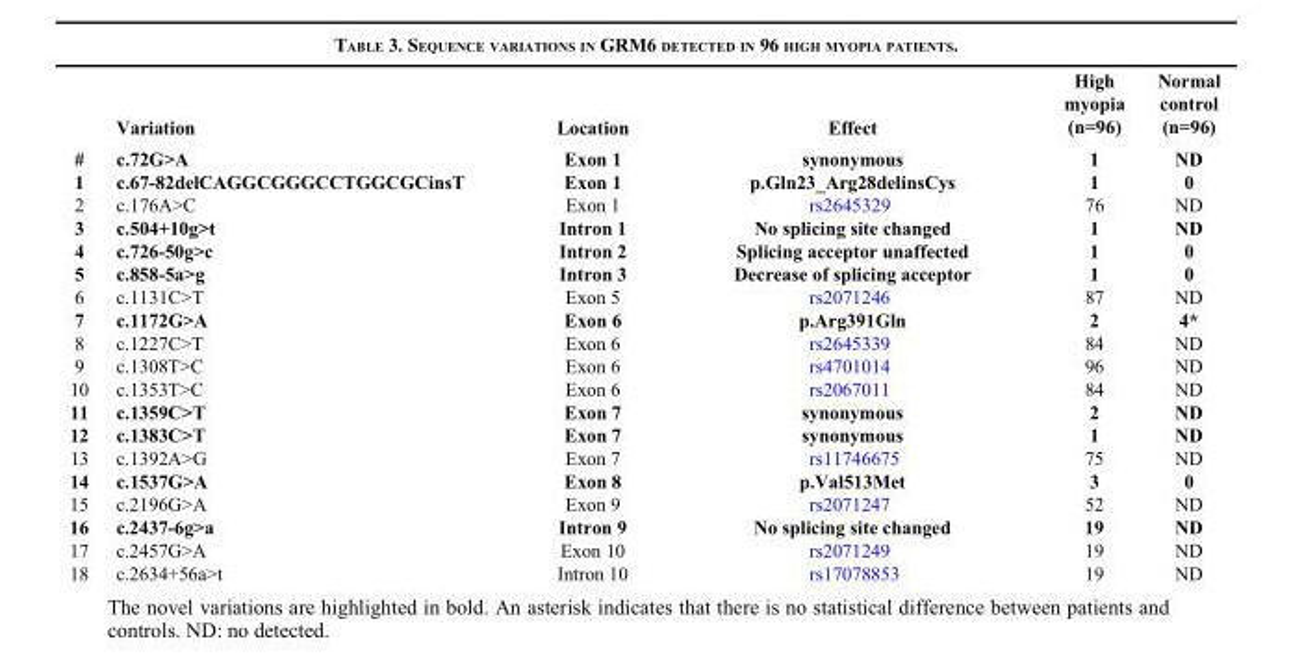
<table><thead><tr><td></td><td>Variation</td><td>Location</td><td>Effect</td><td>High myopia (n=96)</td><td>Normal control (n=96)</td></tr></thead><tbody><tr><td>#</td><td>c.72G&gt;A</td><td>Exon 1</td><td>synonymous</td><td>1</td><td>ND</td></tr><tr><td>1</td><td>c.67-82delCAGGCGGGCCTGGCGCinsT</td><td>Exon 1</td><td>p.Gln23_Arg28delinsCys</td><td>1</td><td>0</td></tr><tr><td>2</td><td>c.176A&gt;C</td><td>Exon 1</td><td>rs2645329</td><td>76</td><td>ND</td></tr><tr><td>3</td><td>c.504+10g&gt;t</td><td>Intron 1</td><td>No splicing site changed</td><td>1</td><td>ND</td></tr><tr><td>4</td><td>c.726-50g&gt;c</td><td>Intron 2</td><td>Splicing acceptor unaffected</td><td>1</td><td>0</td></tr><tr><td>5</td><td>c.858-5a&gt;g</td><td>Intron 3</td><td>Decrease of splicing acceptor</td><td>1</td><td>0</td></tr><tr><td>6</td><td>c.1131C&gt;T</td><td>Exon 5</td><td>rs2071246</td><td>87</td><td>ND</td></tr><tr><td>7</td><td>c.1172G&gt;A</td><td>Exon 6</td><td>p.Arg391Gln</td><td>2</td><td>4*</td></tr><tr><td>8</td><td>c.1227C&gt;T</td><td>Exon 6</td><td>rs2645339</td><td>84</td><td>ND</td></tr><tr><td>9</td><td>c.1308T&gt;C</td><td>Exon 6</td><td>rs4701014</td><td>96</td><td>ND</td></tr><tr><td>10</td><td>c.1353T&gt;C</td><td>Exon 6</td><td>rs2067011</td><td>84</td><td>ND</td></tr><tr><td>11</td><td>c.1359C&gt;T</td><td>Exon 7</td><td>synonymous</td><td>2</td><td>ND</td></tr><tr><td>12</td><td>c.1383C&gt;T</td><td>Exon 7</td><td>synonymous</td><td>1</td><td>ND</td></tr><tr><td>13</td><td>c.1392A&gt;G</td><td>Exon 7</td><td>rs11746675</td><td>75</td><td>ND</td></tr><tr><td>14</td><td>c.1537G&gt;A</td><td>Exon 8</td><td>p.Val513Met</td><td>3</td><td>0</td></tr><tr><td>15</td><td>c.2196G&gt;A</td><td>Exon 9</td><td>rs2071247</td><td>52</td><td>ND</td></tr><tr><td>16</td><td>c.2437-6g&gt;a</td><td>Intron 9</td><td>No splicing site changed</td><td>19</td><td>ND</td></tr><tr><td>17</td><td>c.2457G&gt;A</td><td>Exon 10</td><td>rs2071249</td><td>19</td><td>ND</td></tr><tr><td>18</td><td>c.2634+56a&gt;t</td><td>Intron 10</td><td>rs17078853</td><td>19</td><td>ND</td></tr></tbody></table>